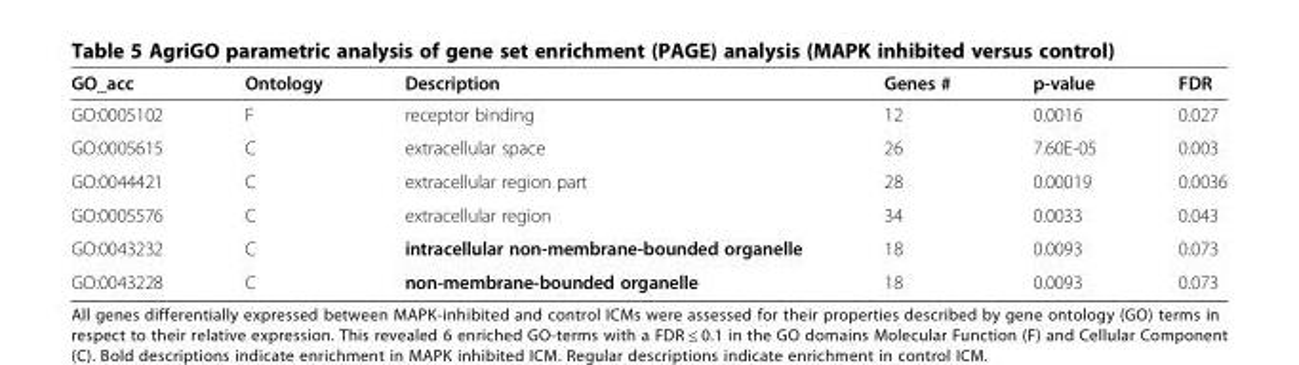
<table><thead><tr><td>GO_acc</td><td>Ontology</td><td>Description</td><td>Genes #</td><td>p-value</td><td>FDR</td></tr></thead><tbody><tr><td>GO:0005102</td><td>F</td><td>receptor binding</td><td>12</td><td>0.0016</td><td>0.027</td></tr><tr><td>GO:0005615</td><td>C</td><td>extracellular space</td><td>26</td><td>7.60E-05</td><td>0.003</td></tr><tr><td>GO:0044421</td><td>C</td><td>extracellular region part</td><td>28</td><td>0.00019</td><td>0.0036</td></tr><tr><td>GO:0005576</td><td>C</td><td>extracellular region</td><td>34</td><td>0.0033</td><td>0.043</td></tr><tr><td>GO:0043232</td><td>C</td><td>intracellular non-membrane-bounded organelle</td><td>18</td><td>0.0093</td><td>0.073</td></tr><tr><td>GO:0043228</td><td>C</td><td>non-membrane-bounded organelle</td><td>18</td><td>0.0093</td><td>0.073</td></tr></tbody></table>